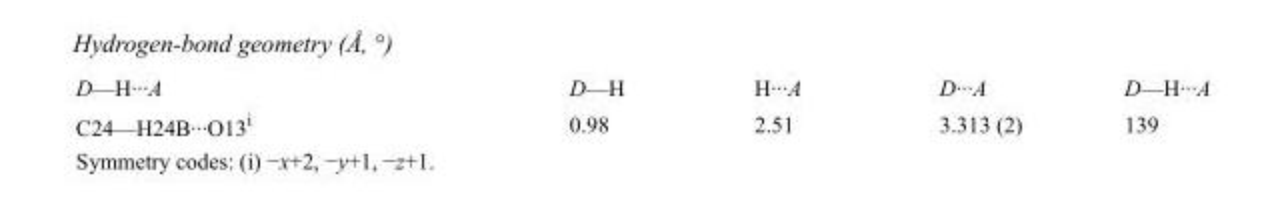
<table><tbody><tr><td>D—H···A</td><td>D—H</td><td>H···A</td><td>D···A</td><td>D—H···A</td></tr><tr><td>C24—H24B···O13<sup>i</sup></td><td>0.98</td><td>2.51</td><td>3.313 (2)</td><td>139</td></tr></tbody></table>